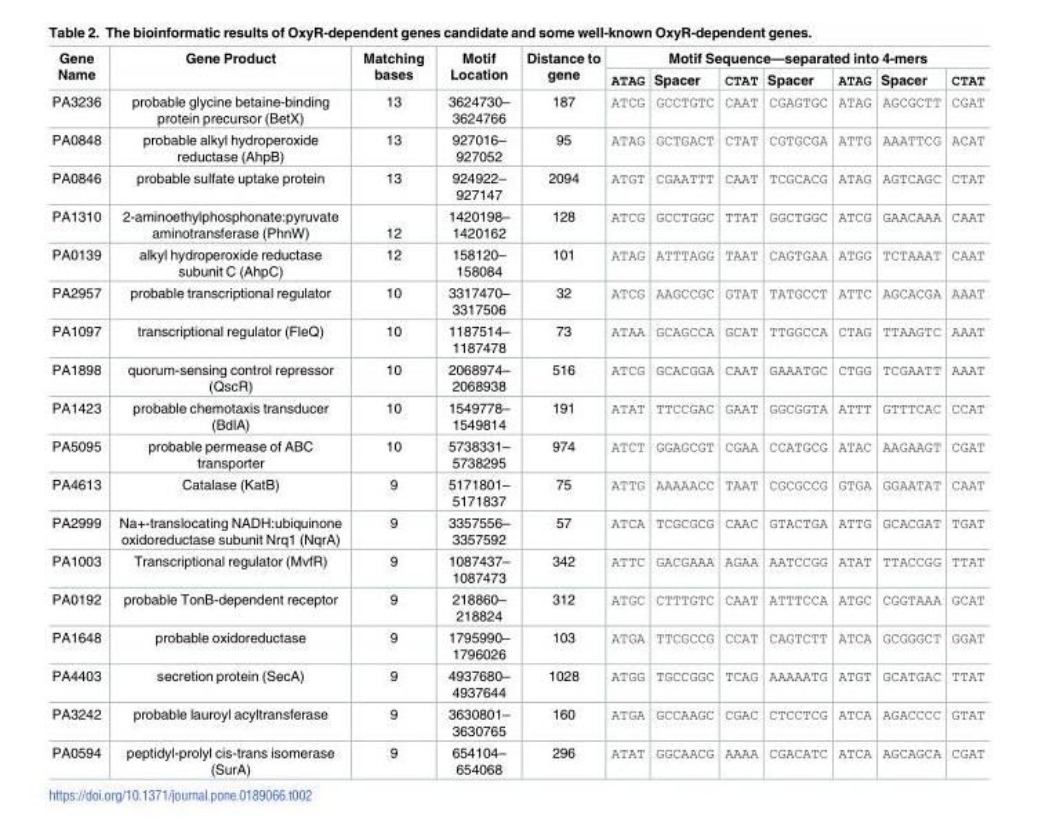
<table><thead><tr><td rowspan="2">Gene Name</td><td rowspan="2">Gene Product</td><td rowspan="2">Matching bases</td><td rowspan="2">Motif Location</td><td rowspan="2">Distance to gene</td><td colspan="7">Motif Sequence—separated into 4-mers</td></tr><tr><td>ATAG</td><td>Spacer</td><td>CTAT</td><td>Spacer</td><td>ATAG</td><td>Spacer</td><td>CTAT</td></tr></thead><tbody><tr><td>PA3236</td><td>probable glycine betaine-binding protein precursor (BetX)</td><td>13</td><td>3624730– 3624766</td><td>187</td><td>ATCG</td><td>GCCTGTC</td><td>CAAT</td><td>CGAGTGC</td><td>ATAG</td><td>AGCGCTT</td><td>CGAT</td></tr><tr><td>PA0848</td><td>probable alkyl hydroperoxide reductase (AhpB)</td><td>13</td><td>927016– 927052</td><td>95</td><td>ATAG</td><td>GCTGACT</td><td>CTAT</td><td>CGTGCGA</td><td>ATTG</td><td>AAATTCG</td><td>ACAT</td></tr><tr><td>PA0846</td><td>probable sulfate uptake protein</td><td>13</td><td>924922– 927147</td><td>2094</td><td>ATGT</td><td>CGAATTT</td><td>CAAT</td><td>TCGCACG</td><td>ATAG</td><td>AGTCAGC</td><td>CTAT</td></tr><tr><td>PA1310</td><td>2-aminoethylphosphonate:pyruvate aminotransferase (PhnW)</td><td>12</td><td>1420198– 1420162</td><td>128</td><td>ATCG</td><td>GCCTGGC</td><td>TTAT</td><td>GGCTGGC</td><td>ATCG</td><td>GAACAAA</td><td>CAAT</td></tr><tr><td>PA0139</td><td>alkyl hydroperoxide reductase subunit C (AhpC)</td><td>12</td><td>158120– 158084</td><td>101</td><td>ATAG</td><td>ATTTAGG</td><td>TAAT</td><td>CAGTGAA</td><td>ATGG</td><td>TCTAAAT</td><td>CAAT</td></tr><tr><td>PA2957</td><td>probable transcriptional regulator</td><td>10</td><td>3317470– 3317506</td><td>32</td><td>ATCG</td><td>AAGCCGC</td><td>GTAT</td><td>TATGCCT</td><td>ATTC</td><td>AGCACGA</td><td>AAAT</td></tr><tr><td>PA1097</td><td>transcriptional regulator (FleQ)</td><td>10</td><td>1187514– 1187478</td><td>73</td><td>ATAA</td><td>GCAGCCA</td><td>GCAT</td><td>TTGGCCA</td><td>CTAG</td><td>TTAAGTC</td><td>AAAT</td></tr><tr><td>PA1898</td><td>quorum-sensing control repressor (QscR)</td><td>10</td><td>2068974– 2068938</td><td>516</td><td>ATCG</td><td>GCACGGA</td><td>CAAT</td><td>GAAATGC</td><td>CTGG</td><td>TCGAATT</td><td>AAAT</td></tr><tr><td>PA1423</td><td>probable chemotaxis transducer (BdlA)</td><td>10</td><td>1549778– 1549814</td><td>191</td><td>ATAT</td><td>TTCCGAC</td><td>GAAT</td><td>GGCGGTA</td><td>ATTT</td><td>GTTTCAC</td><td>CCAT</td></tr><tr><td>PA5095</td><td>probable permease of ABC transporter</td><td>10</td><td>5738331– 5738295</td><td>974</td><td>ATCT</td><td>GGAGCGT</td><td>CGAA</td><td>CCATGCG</td><td>ATAC</td><td>AAGAAGT</td><td>CGAT</td></tr><tr><td>PA4613</td><td>Catalase (KatB)</td><td>9</td><td>5171801– 5171837</td><td>75</td><td>ATTG</td><td>AAAAACC</td><td>TAAT</td><td>CGCGCCG</td><td>GTGA</td><td>GGAATAT</td><td>CAAT</td></tr><tr><td>PA2999</td><td>Na+-translocating NADH:ubiquinone oxidoreductase subunit Nrq1 (NqrA)</td><td>9</td><td>3357556– 3357592</td><td>57</td><td>ATCA</td><td>TCGCGCG</td><td>CAAC</td><td>GTACTGA</td><td>ATTG</td><td>GCACGAT</td><td>TGAT</td></tr><tr><td>PA1003</td><td>Transcriptional regulator (MvfR)</td><td>9</td><td>1087437– 1087473</td><td>342</td><td>ATTC</td><td>GACGAAA</td><td>AGAA</td><td>AATCCGG</td><td>ATAT</td><td>TTACCGG</td><td>TTAT</td></tr><tr><td>PA0192</td><td>probable TonB-dependent receptor</td><td>9</td><td>218860– 218824</td><td>312</td><td>ATGC</td><td>CTTTGTC</td><td>CAAT</td><td>ATTTCCA</td><td>ATGC</td><td>CGGTAAA</td><td>GCAT</td></tr><tr><td>PA1648</td><td>probable oxidoreductase</td><td>9</td><td>1795990– 1796026</td><td>103</td><td>ATGA</td><td>TTCGCCG</td><td>CCAT</td><td>CAGTCTT</td><td>ATCA</td><td>GCGGGCT</td><td>GGAT</td></tr><tr><td>PA4403</td><td>secretion protein (SecA)</td><td>9</td><td>4937680– 4937644</td><td>1028</td><td>ATGG</td><td>TGCCGGC</td><td>TCAG</td><td>AAAAATG</td><td>ATGT</td><td>GCATGAC</td><td>TTAT</td></tr><tr><td>PA3242</td><td>probable lauroyl acyltransferase</td><td>9</td><td>3630801– 3630765</td><td>160</td><td>ATGA</td><td>GCCAAGC</td><td>CGAC</td><td>CTCCTCG</td><td>ATCA</td><td>AGACCCC</td><td>GTAT</td></tr><tr><td>PA0594</td><td>peptidyl-prolyl cis-trans isomerase (SurA)</td><td>9</td><td>654104– 654068</td><td>296</td><td>ATAT</td><td>GGCAACG</td><td>AAAA</td><td>CGACATC</td><td>ATCA</td><td>AGCAGCA</td><td>CGAT</td></tr></tbody></table>